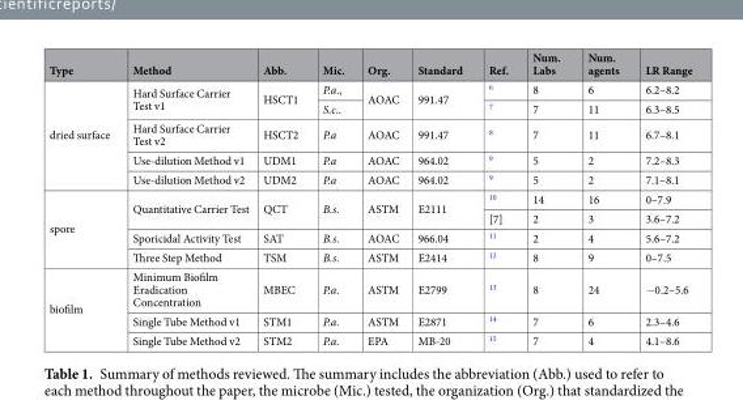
<table><thead><tr><td>Type</td><td>Method</td><td>Abb.</td><td>Mic.</td><td>Org.</td><td>Standard</td><td>Ref.</td><td>Num. Labs</td><td>Num. agents</td><td>LR Range</td></tr></thead><tbody><tr><td rowspan="5">dried surface</td><td rowspan="2">Hard Surface Carrier Test v1</td><td rowspan="2">HSCT1</td><td>P.a.,</td><td rowspan="2">AOAC</td><td rowspan="2">991.47</td><td><sup>6</sup></td><td>8</td><td>6</td><td>6.2–8.2</td></tr><tr><td>S.c..</td><td><sup>7</sup></td><td>7</td><td>11</td><td>6.3–8.5</td></tr><tr><td>Hard Surface Carrier Test v2</td><td>HSCT2</td><td>P.a</td><td>AOAC</td><td>991.47</td><td><sup>8</sup></td><td>7</td><td>11</td><td>6.7–8.1</td></tr><tr><td>Use-dilution Method v1</td><td>UDM1</td><td>P.a</td><td>AOAC</td><td>964.02</td><td><sup>9</sup></td><td>5</td><td>2</td><td>7.2–8.3</td></tr><tr><td>Use-dilution Method v2</td><td>UDM2</td><td>P.a</td><td>AOAC</td><td>964.02</td><td><sup>9</sup></td><td>5</td><td>2</td><td>7.1–8.1</td></tr><tr><td rowspan="4">spore</td><td rowspan="2">Quantitative Carrier Test</td><td rowspan="2">QCT</td><td rowspan="2">B.s.</td><td rowspan="2">ASTM</td><td rowspan="2">E2111</td><td><sup>10</sup></td><td>14</td><td>16</td><td>0–7.9</td></tr><tr><td>[7]</td><td>2</td><td>3</td><td>3.6–7.2</td></tr><tr><td>Sporicidal Activity Test</td><td>SAT</td><td>B.s.</td><td>AOAC</td><td>966.04</td><td><sup>11</sup></td><td>2</td><td>4</td><td>5.6–7.2</td></tr><tr><td>Three Step Method</td><td>TSM</td><td>B.s.</td><td>ASTM</td><td>E2414</td><td><sup>12</sup></td><td>8</td><td>9</td><td>0–7.5</td></tr><tr><td rowspan="3">biofilm</td><td>Minimum Biofilm Eradication Concentration</td><td>MBEC</td><td>P.a.</td><td>ASTM</td><td>E2799</td><td><sup>13</sup></td><td>8</td><td>24</td><td>−0.2–5.6</td></tr><tr><td>Single Tube Method v1</td><td>STM1</td><td>P.a.</td><td>ASTM</td><td>E2871</td><td><sup>14</sup></td><td>7</td><td>6</td><td>2.3–4.6</td></tr><tr><td>Single Tube Method v2</td><td>STM2</td><td>P.a.</td><td>EPA</td><td>MB-20</td><td><sup>15</sup></td><td>7</td><td>4</td><td>4.1–8.6</td></tr></tbody></table>